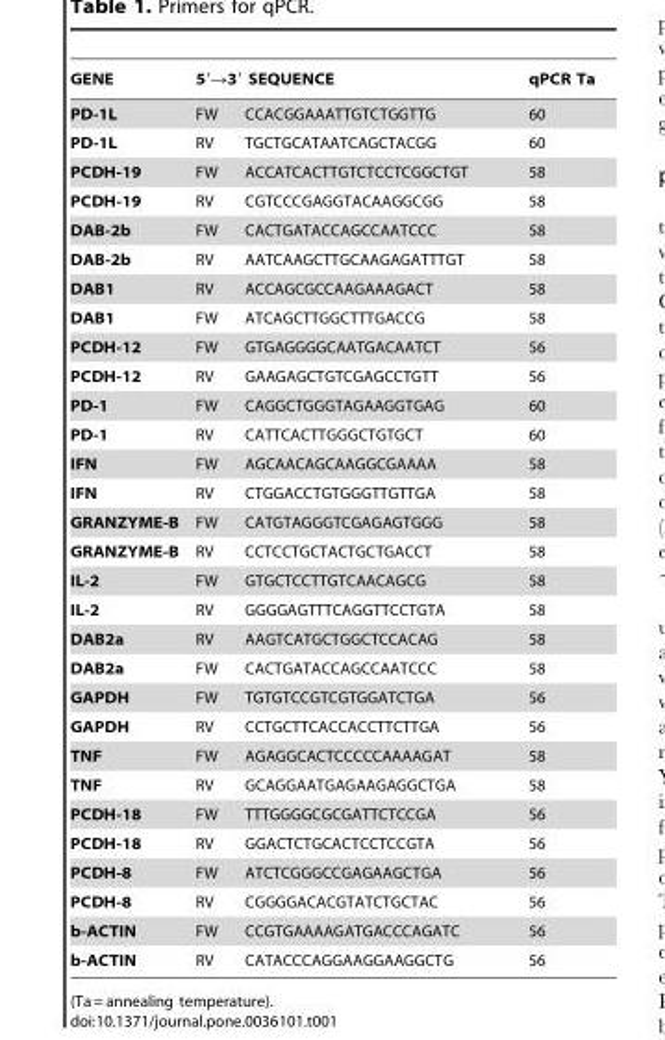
<table><thead><tr><td rowspan="2">GENE PD-1L</td><td colspan="2">5′→3′ SEQUENCE</td><td rowspan="2">qPCR Ta 60</td></tr><tr><td>FW</td><td>CCACGGAAATTGTCTGGTTG</td></tr></thead><tbody><tr><td>PD-1L</td><td>RV</td><td>TGCTGCATAATCAGCTACGG</td><td>60</td></tr><tr><td>PCDH-19</td><td>FW</td><td>ACCATCACTTGTCTCCTCGGCTGT</td><td>58</td></tr><tr><td>PCDH-19</td><td>RV</td><td>CGTCCCGAGGTACAAGGCGG</td><td>58</td></tr><tr><td>DAB-2b</td><td>FW</td><td>CACTGATACCAGCCAATCCC</td><td>58</td></tr><tr><td>DAB-2b</td><td>RV</td><td>AATCAAGCTTGCAAGAGATTTGT</td><td>58</td></tr><tr><td>DAB1</td><td>RV</td><td>ACCAGCGCCAAGAAAGACT</td><td>58</td></tr><tr><td>DAB1</td><td>FW</td><td>ATCAGCTTGGCTTTGACCG</td><td>58</td></tr><tr><td>PCDH-12</td><td>FW</td><td>GTGAGGGGCAATGACAATCT</td><td>56</td></tr><tr><td>PCDH-12</td><td>RV</td><td>GAAGAGCTGTCGAGCCTGTT</td><td>56</td></tr><tr><td>PD-1</td><td>FW</td><td>CAGGCTGGGTAGAAGGTGAG</td><td>60</td></tr><tr><td>PD-1</td><td>RV</td><td>CATTCACTTGGGCTGTGCT</td><td>60</td></tr><tr><td>IFN</td><td>FW</td><td>AGCAACAGCAAGGCGAAAA</td><td>58</td></tr><tr><td>IFN</td><td>RV</td><td>CTGGACCTGTGGGTTGTTGA</td><td>58</td></tr><tr><td>GRANZYME-B</td><td>FW</td><td>CATGTAGGGTCGAGAGTGGG</td><td>58</td></tr><tr><td>GRANZYME-B</td><td>RV</td><td>CCTCCTGCTACTGCTGACCT</td><td>58</td></tr><tr><td>IL-2</td><td>FW</td><td>GTGCTCCTTGTCAACAGCG</td><td>58</td></tr><tr><td>IL-2</td><td>RV</td><td>GGGGAGTTTCAGGTTCCTGTA</td><td>58</td></tr><tr><td>DAB2a</td><td>RV</td><td>AAGTCATGCTGGCTCCACAG</td><td>58</td></tr><tr><td>DAB2a</td><td>FW</td><td>CACTGATACCAGCCAATCCC</td><td>58</td></tr><tr><td>GAPDH</td><td>FW</td><td>TGTGTCCGTCGTGGATCTGA</td><td>56</td></tr><tr><td>GAPDH</td><td>RV</td><td>CCTGCTTCACCACCTTCTTGA</td><td>56</td></tr><tr><td>TNF</td><td>FW</td><td>AGAGGCACTCCCCCAAAAGAT</td><td>58</td></tr><tr><td>TNF</td><td>RV</td><td>GCAGGAATGAGAAGAGGCTGA</td><td>58</td></tr><tr><td>PCDH-18</td><td>FW</td><td>TTTGGGGCGCGATTCTCCGA</td><td>56</td></tr><tr><td>PCDH-18</td><td>RV</td><td>GGACTCTGCACTCCTCCGTA</td><td>56</td></tr><tr><td>PCDH-8</td><td>FW</td><td>ATCTCGGGCCGAGAAGCTGA</td><td>56</td></tr><tr><td>PCDH-8</td><td>RV</td><td>CGGGGACACGTATCTGCTAC</td><td>56</td></tr><tr><td>b-ACTIN</td><td>FW</td><td>CCGTGAAAAGATGACCCAGATC</td><td>56</td></tr><tr><td>b-ACTIN</td><td>RV</td><td>CATACCCAGGAAGGAAGGCTG</td><td>56</td></tr></tbody></table>